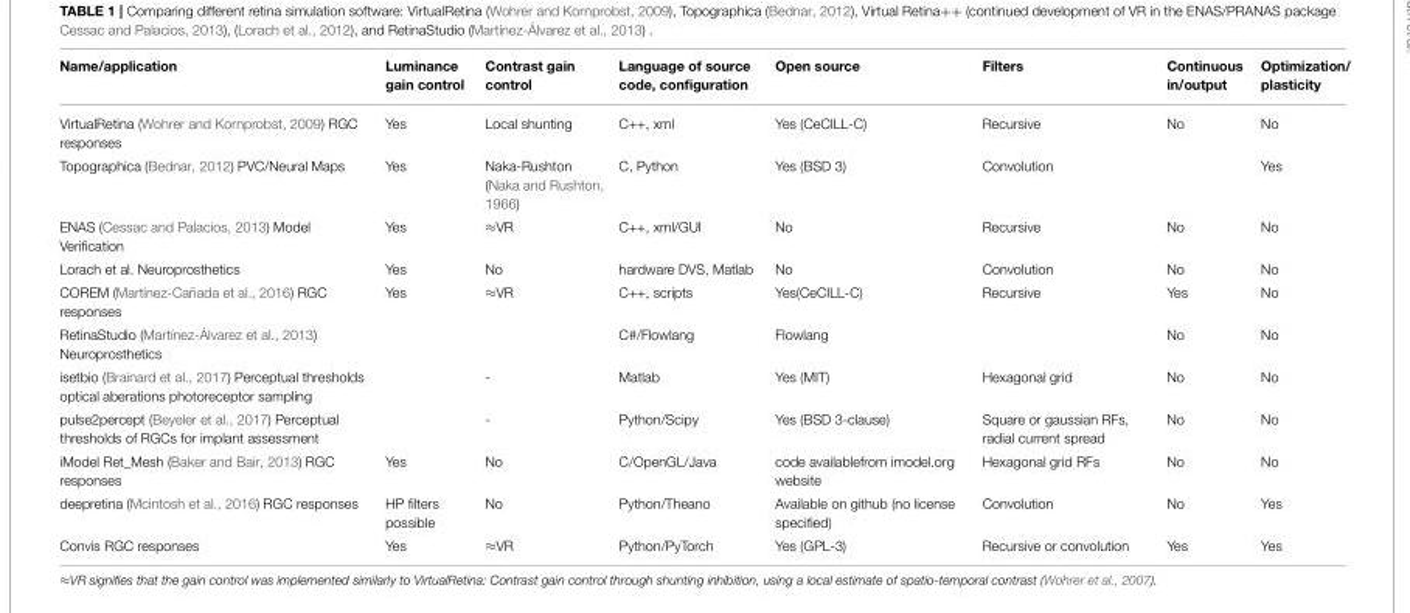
<table><thead><tr><td>Name/application</td><td>Luminance gain control</td><td>Contrast gain control</td><td>Language of source code, configuration</td><td>Open source</td><td>Filters</td><td>Continuous in/output</td><td>Optimization/ plasticity</td></tr></thead><tbody><tr><td>VirtualRetina (Wohrer and Kornprobst, 2009) RGC responses</td><td>Yes</td><td>Local shunting</td><td>C++, xml</td><td>Yes (CeCILL-C)</td><td>Recursive</td><td>No</td><td>No</td></tr><tr><td>Topographica (Bednar, 2012) PVC/Neural Maps</td><td>Yes</td><td>Naka-Rushton (Naka and Rushton, 1966)</td><td>C, Python</td><td>Yes (BSD 3)</td><td>Convolution</td><td></td><td>Yes</td></tr><tr><td>ENAS (Cessac and Palacios, 2013) Model Verification</td><td>Yes</td><td>≈VR</td><td>C++, xml/GUI</td><td>No</td><td>Recursive</td><td>No</td><td>No</td></tr><tr><td>Lorach et al. Neuroprosthetics</td><td>Yes</td><td>No</td><td>hardware DVS, Matlab</td><td>No</td><td>Convolution</td><td>No</td><td>No</td></tr><tr><td>COREM (Martínez-Cañada et al., 2016) RGC responses</td><td>Yes</td><td>≈VR</td><td>C++, scripts</td><td>Yes(CeCILL-C)</td><td>Recursive</td><td>Yes</td><td>No</td></tr><tr><td>RetinaStudio (Martínez-Álvarez et al., 2013) Neuroprosthetics</td><td></td><td></td><td>C#/Flowlang</td><td>Flowlang</td><td></td><td>No</td><td>No</td></tr><tr><td>isetbio (Brainard et al., 2017) Perceptual thresholds optical aberations photoreceptor sampling</td><td></td><td>-</td><td>Matlab</td><td>Yes (MIT)</td><td>Hexagonal grid</td><td>No</td><td>No</td></tr><tr><td>pulse2percept (Beyeler et al., 2017) Perceptual thresholds of RGCs for implant assessment</td><td></td><td>-</td><td>Python/Scipy</td><td>Yes (BSD 3-clause)</td><td>Square or gaussian RFs, radial current spread</td><td>No</td><td>No</td></tr><tr><td>iModel Ret_Mesh (Baker and Bair, 2013) RGC responses</td><td>Yes</td><td>No</td><td>C/OpenGL/Java</td><td>code availablefrom imodel.org website</td><td>Hexagonal grid RFs</td><td>No</td><td>No</td></tr><tr><td>deepretina (Mcintosh et al., 2016) RGC responses</td><td>HP filters possible</td><td>No</td><td>Python/Theano</td><td>Available on github (no license specified)</td><td>Convolution</td><td>No</td><td>Yes</td></tr><tr><td>Convis RGC responses</td><td>Yes</td><td>≈VR</td><td>Python/PyTorch</td><td>Yes (GPL-3)</td><td>Recursive or convolution</td><td>Yes</td><td>Yes</td></tr></tbody></table>